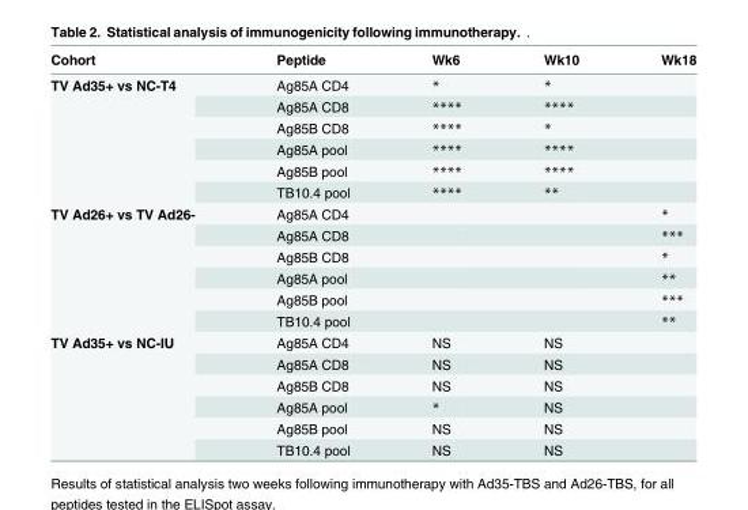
<table><thead><tr><td>Cohort</td><td>Peptide</td><td>Wk6</td><td>Wk10</td><td>Wk18</td></tr></thead><tbody><tr><td rowspan="6">TV Ad35+ vs NC-T4</td><td>Ag85A CD4</td><td>*</td><td>*</td><td></td></tr><tr><td>Ag85A CD8</td><td>****</td><td>****</td><td></td></tr><tr><td>Ag85B CD8</td><td>****</td><td>*</td><td></td></tr><tr><td>Ag85A pool</td><td>****</td><td>****</td><td></td></tr><tr><td>Ag85B pool</td><td>****</td><td>****</td><td></td></tr><tr><td>TB10.4 pool</td><td>****</td><td>**</td><td></td></tr><tr><td rowspan="6">TV Ad26+ vs TV Ad26-</td><td>Ag85A CD4</td><td></td><td></td><td>*</td></tr><tr><td>Ag85A CD8</td><td></td><td></td><td>***</td></tr><tr><td>Ag85B CD8</td><td></td><td></td><td>*</td></tr><tr><td>Ag85A pool</td><td></td><td></td><td>**</td></tr><tr><td>Ag85B pool</td><td></td><td></td><td>***</td></tr><tr><td>TB10.4 pool</td><td></td><td></td><td>**</td></tr><tr><td rowspan="6">TV Ad35+ vs NC-IU</td><td>Ag85A CD4</td><td>NS</td><td>NS</td><td></td></tr><tr><td>Ag85A CD8</td><td>NS</td><td>NS</td><td></td></tr><tr><td>Ag85B CD8</td><td>NS</td><td>NS</td><td></td></tr><tr><td>Ag85A pool</td><td>*</td><td>NS</td><td></td></tr><tr><td>Ag85B pool</td><td>NS</td><td>NS</td><td></td></tr><tr><td>TB10.4 pool</td><td>NS</td><td>NS</td><td></td></tr></tbody></table>